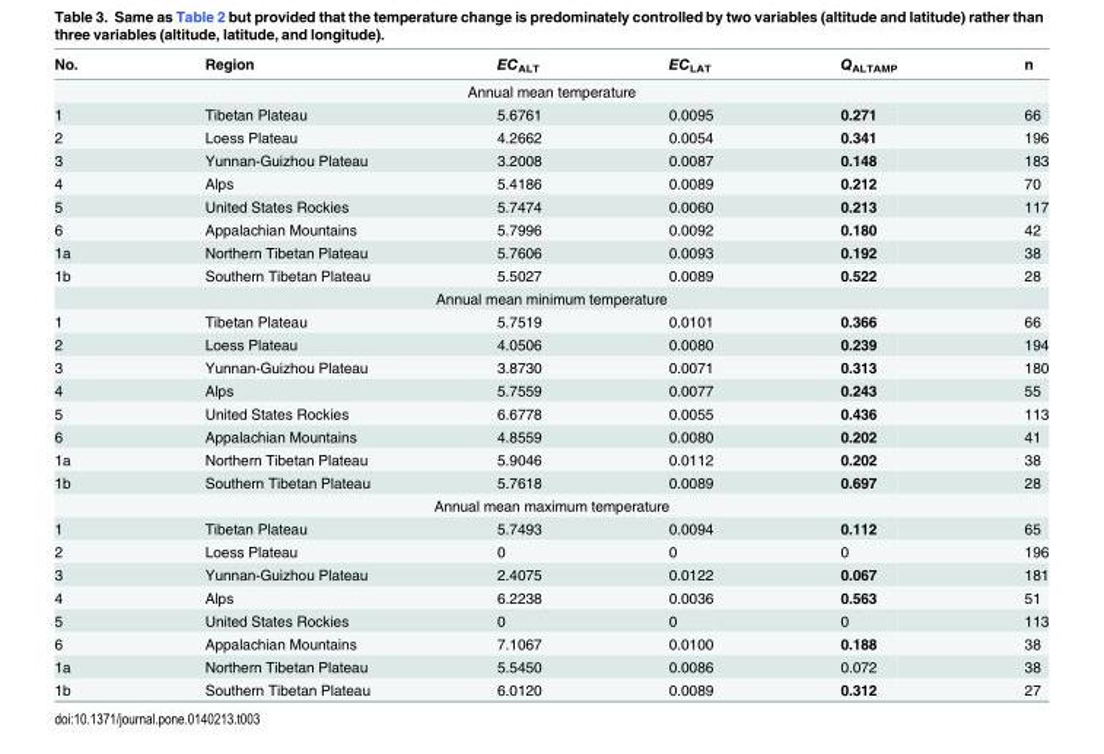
<table><thead><tr><td>No.</td><td>Region</td><td>EC<sub>ALT</sub></td><td>EC<sub>LAT</sub></td><td>Q<sub>ALTAMP</sub></td><td>n</td></tr></thead><tbody><tr><td colspan="6">Annual mean temperature</td></tr><tr><td>1</td><td>Tibetan Plateau</td><td>5.6761</td><td>0.0095</td><td>0.271</td><td>66</td></tr><tr><td>2</td><td>Loess Plateau</td><td>4.2662</td><td>0.0054</td><td>0.341</td><td>196</td></tr><tr><td>3</td><td>Yunnan-Guizhou Plateau</td><td>3.2008</td><td>0.0087</td><td>0.148</td><td>183</td></tr><tr><td>4</td><td>Alps</td><td>5.4186</td><td>0.0089</td><td>0.212</td><td>70</td></tr><tr><td>5</td><td>United States Rockies</td><td>5.7474</td><td>0.0060</td><td>0.213</td><td>117</td></tr><tr><td>6</td><td>Appalachian Mountains</td><td>5.7996</td><td>0.0092</td><td>0.180</td><td>42</td></tr><tr><td>1a</td><td>Northern Tibetan Plateau</td><td>5.7606</td><td>0.0093</td><td>0.192</td><td>38</td></tr><tr><td>1b</td><td>Southern Tibetan Plateau</td><td>5.5027</td><td>0.0089</td><td>0.522</td><td>28</td></tr><tr><td colspan="6">Annual mean minimum temperature</td></tr><tr><td>1</td><td>Tibetan Plateau</td><td>5.7519</td><td>0.0101</td><td>0.366</td><td>66</td></tr><tr><td>2</td><td>Loess Plateau</td><td>4.0506</td><td>0.0080</td><td>0.239</td><td>194</td></tr><tr><td>3</td><td>Yunnan-Guizhou Plateau</td><td>3.8730</td><td>0.0071</td><td>0.313</td><td>180</td></tr><tr><td>4</td><td>Alps</td><td>5.7559</td><td>0.0077</td><td>0.243</td><td>55</td></tr><tr><td>5</td><td>United States Rockies</td><td>6.6778</td><td>0.0055</td><td>0.436</td><td>113</td></tr><tr><td>6</td><td>Appalachian Mountains</td><td>4.8559</td><td>0.0080</td><td>0.202</td><td>41</td></tr><tr><td>1a</td><td>Northern Tibetan Plateau</td><td>5.9046</td><td>0.0112</td><td>0.202</td><td>38</td></tr><tr><td>1b</td><td>Southern Tibetan Plateau</td><td>5.7618</td><td>0.0089</td><td>0.697</td><td>28</td></tr><tr><td colspan="6">Annual mean maximum temperature</td></tr><tr><td>1</td><td>Tibetan Plateau</td><td>5.7493</td><td>0.0094</td><td>0.112</td><td>65</td></tr><tr><td>2</td><td>Loess Plateau</td><td>0</td><td>0</td><td>0</td><td>196</td></tr><tr><td>3</td><td>Yunnan-Guizhou Plateau</td><td>2.4075</td><td>0.0122</td><td>0.067</td><td>181</td></tr><tr><td>4</td><td>Alps</td><td>6.2238</td><td>0.0036</td><td>0.563</td><td>51</td></tr><tr><td>5</td><td>United States Rockies</td><td>0</td><td>0</td><td>0</td><td>113</td></tr><tr><td>6</td><td>Appalachian Mountains</td><td>7.1067</td><td>0.0100</td><td>0.188</td><td>38</td></tr><tr><td>1a</td><td>Northern Tibetan Plateau</td><td>5.5450</td><td>0.0086</td><td>0.072</td><td>38</td></tr><tr><td>1b</td><td>Southern Tibetan Plateau</td><td>6.0120</td><td>0.0089</td><td>0.312</td><td>27</td></tr></tbody></table>